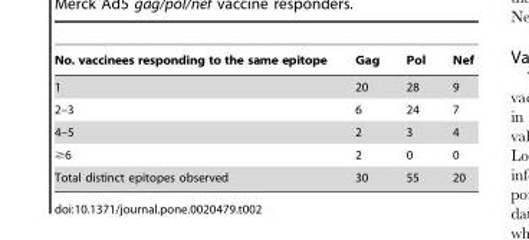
<table><thead><tr><td>No. vaccinees responding to the same epitope</td><td>Gag</td><td>Pol</td><td>Nef</td></tr></thead><tbody><tr><td>1</td><td>20</td><td>28</td><td>9</td></tr><tr><td>2–3</td><td>6</td><td>24</td><td>7</td></tr><tr><td>4–5</td><td>2</td><td>3</td><td>4</td></tr><tr><td>≥6</td><td>2</td><td>0</td><td>0</td></tr><tr><td>Total distinct epitopes observed</td><td>30</td><td>55</td><td>20</td></tr></tbody></table>